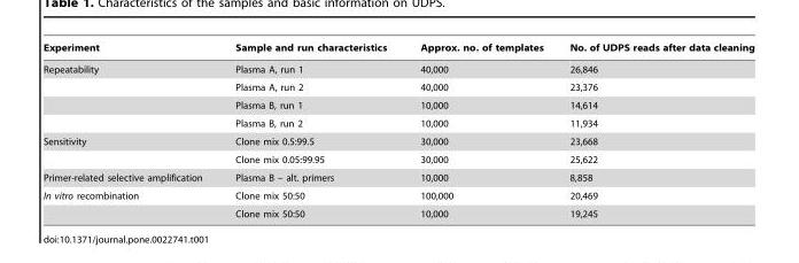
<table><thead><tr><td>Experiment</td><td>Sample and run characteristics</td><td>Approx. no. of templates</td><td>No. of UDPS reads after data cleaning</td></tr></thead><tbody><tr><td rowspan="4">Repeatability</td><td>Plasma A, run 1</td><td>40,000</td><td>26,846</td></tr><tr><td>Plasma A, run 2</td><td>40,000</td><td>23,376</td></tr><tr><td>Plasma B, run 1</td><td>10,000</td><td>14,614</td></tr><tr><td>Plasma B, run 2</td><td>10,000</td><td>11,934</td></tr><tr><td rowspan="2">Sensitivity</td><td>Clone mix 0.5:99.5</td><td>30,000</td><td>23,668</td></tr><tr><td>Clone mix 0.05:99.95</td><td>30,000</td><td>25,622</td></tr><tr><td>Primer-related selective amplification</td><td>Plasma B – alt. primers</td><td>10,000</td><td>8,858</td></tr><tr><td rowspan="2">In vitro recombination</td><td>Clone mix 50:50</td><td>100,000</td><td>20,469</td></tr><tr><td>Clone mix 50:50</td><td>10,000</td><td>19,245</td></tr></tbody></table>